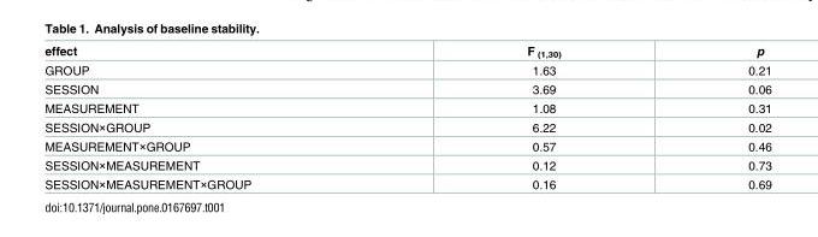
<table><thead><tr><td>effect</td><td>F <sub>(1,30)</sub></td><td>p</td></tr></thead><tbody><tr><td>GROUP</td><td>1.63</td><td>0.21</td></tr><tr><td>SESSION</td><td>3.69</td><td>0.06</td></tr><tr><td>MEASUREMENT</td><td>1.08</td><td>0.31</td></tr><tr><td>SESSION×GROUP</td><td>6.22</td><td>0.02</td></tr><tr><td>MEASUREMENT×GROUP</td><td>0.57</td><td>0.46</td></tr><tr><td>SESSION×MEASUREMENT</td><td>0.12</td><td>0.73</td></tr><tr><td>SESSION×MEASUREMENT×GROUP</td><td>0.16</td><td>0.69</td></tr></tbody></table>